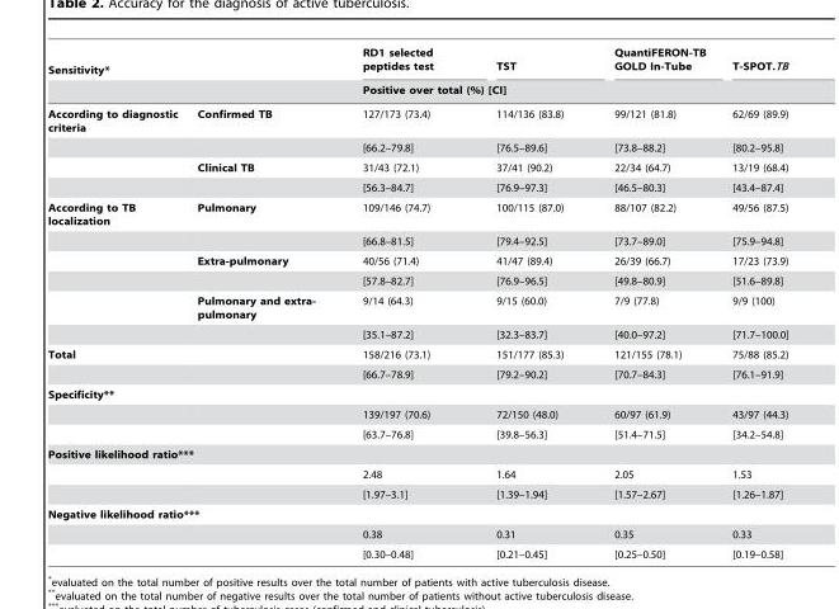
<table><thead><tr><td colspan="2">Sensitivity*</td><td>RD1 selected peptides test</td><td>TST</td><td>QuantiFERON-TB GOLD In-Tube</td><td>T-SPOT.TB</td></tr><tr><td></td><td></td><td colspan="4">Positive over total (%) [CI]</td></tr></thead><tbody><tr><td rowspan="4">According to diagnostic criteria</td><td>Confirmed TB</td><td>127/173 (73.4)</td><td>114/136 (83.8)</td><td>99/121 (81.8)</td><td>62/69 (89.9)</td></tr><tr><td></td><td>[66.2–79.8]</td><td>[76.5–89.6]</td><td>[73.8–88.2]</td><td>[80.2–95.8]</td></tr><tr><td>Clinical TB</td><td>31/43 (72.1)</td><td>37/41 (90.2)</td><td>22/34 (64.7)</td><td>13/19 (68.4)</td></tr><tr><td></td><td>[56.3–84.7]</td><td>[76.9–97.3]</td><td>[46.5–80.3]</td><td>[43.4–87.4]</td></tr><tr><td rowspan="6">According to TB localization</td><td>Pulmonary</td><td>109/146 (74.7)</td><td>100/115 (87.0)</td><td>88/107 (82.2)</td><td>49/56 (87.5)</td></tr><tr><td></td><td>[66.8–81.5]</td><td>[79.4–92.5]</td><td>[73.7–89.0]</td><td>[75.9–94.8]</td></tr><tr><td>Extra-pulmonary</td><td>40/56 (71.4)</td><td>41/47 (89.4)</td><td>26/39 (66.7)</td><td>17/23 (73.9)</td></tr><tr><td></td><td>[57.8–82.7]</td><td>[76.9–96.5]</td><td>[49.8–80.9]</td><td>[51.6–89.8]</td></tr><tr><td>Pulmonary and extra- pulmonary</td><td>9/14 (64.3)</td><td>9/15 (60.0)</td><td>7/9 (77.8)</td><td>9/9 (100)</td></tr><tr><td></td><td>[35.1–87.2]</td><td>[32.3–83.7]</td><td>[40.0–97.2]</td><td>[71.7–100.0]</td></tr><tr><td rowspan="2">Total</td><td></td><td>158/216 (73.1)</td><td>151/177 (85.3)</td><td>121/155 (78.1)</td><td>75/88 (85.2)</td></tr><tr><td></td><td>[66.7–78.9]</td><td>[79.2–90.2]</td><td>[70.7–84.3]</td><td>[76.1–91.9]</td></tr><tr><td colspan="6">Specificity**</td></tr><tr><td></td><td></td><td>139/197 (70.6)</td><td>72/150 (48.0)</td><td>60/97 (61.9)</td><td>43/97 (44.3)</td></tr><tr><td></td><td></td><td>[63.7–76.8]</td><td>[39.8–56.3]</td><td>[51.4–71.5]</td><td>[34.2–54.8]</td></tr><tr><td colspan="6">Positive likelihood ratio***</td></tr><tr><td></td><td></td><td>2.48</td><td>1.64</td><td>2.05</td><td>1.53</td></tr><tr><td></td><td></td><td>[1.97–3.1]</td><td>[1.39–1.94]</td><td>[1.57–2.67]</td><td>[1.26–1.87]</td></tr><tr><td colspan="6">Negative likelihood ratio***</td></tr><tr><td></td><td></td><td>0.38</td><td>0.31</td><td>0.35</td><td>0.33</td></tr><tr><td></td><td></td><td>[0.30–0.48]</td><td>[0.21–0.45]</td><td>[0.25–0.50]</td><td>[0.19–0.58]</td></tr></tbody></table>